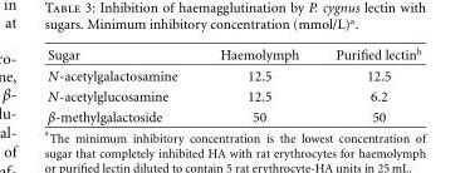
<table><thead><tr><td>Sugar</td><td>Haemolymph</td><td>Purified lectin<sup>b</sup></td></tr></thead><tbody><tr><td>N-acetylgalactosamine</td><td>12.5</td><td>12.5</td></tr><tr><td>N-acetylglucosamine</td><td>12.5</td><td>6.2</td></tr><tr><td>β-methylgalactoside</td><td>50</td><td>50</td></tr></tbody></table>